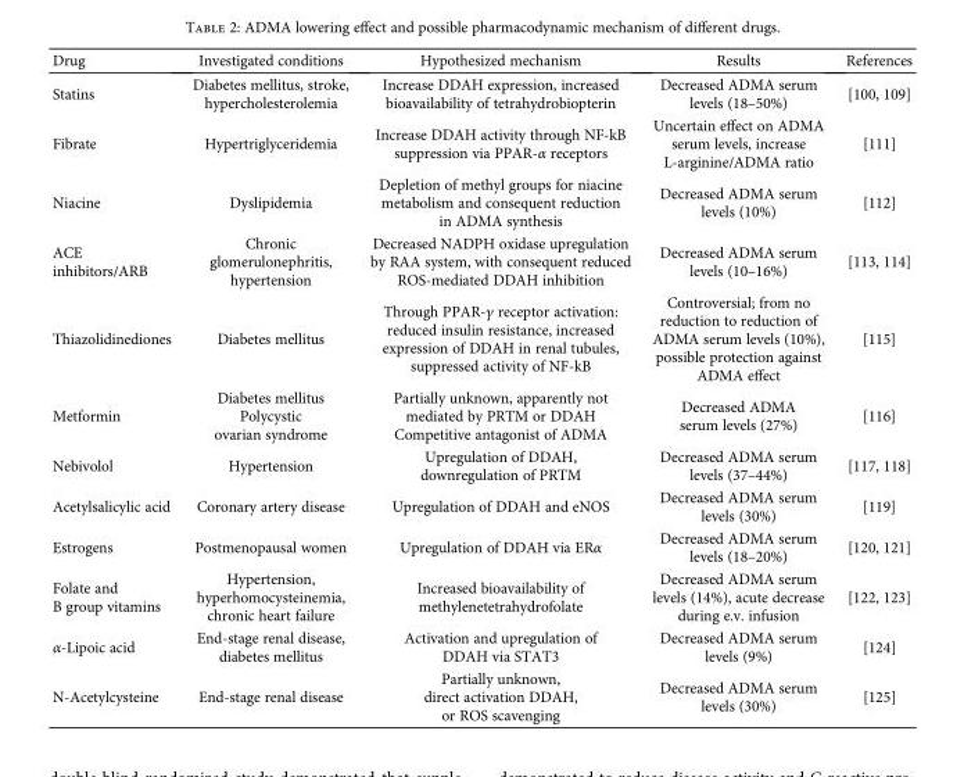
<table><thead><tr><td>Drug</td><td>Investigated conditions</td><td>Hypothesized mechanism</td><td>Results</td><td>References</td></tr></thead><tbody><tr><td>Statins</td><td>Diabetes mellitus, stroke, hypercholesterolemia</td><td>Increase DDAH expression, increased bioavailability of tetrahydrobiopterin</td><td>Decreased ADMA serum levels (18–50%)</td><td>[100, 109]</td></tr><tr><td>Fibrate</td><td>Hypertriglyceridemia</td><td>Increase DDAH activity through NF-kB suppression via PPAR-α receptors</td><td>Uncertain effect on ADMA serum levels, increase L-arginine/ADMA ratio</td><td>[111]</td></tr><tr><td>Niacine</td><td>Dyslipidemia</td><td>Depletion of methyl groups for niacine metabolism and consequent reduction in ADMA synthesis</td><td>Decreased ADMA serum levels (10%)</td><td>[112]</td></tr><tr><td>ACE inhibitors/ARB</td><td>Chronic glomerulonephritis, hypertension</td><td>Decreased NADPH oxidase upregulation by RAA system, with consequent reduced ROS-mediated DDAH inhibition</td><td>Decreased ADMA serum levels (10–16%)</td><td>[113, 114]</td></tr><tr><td>Thiazolidinediones</td><td>Diabetes mellitus</td><td>Through PPAR-γ receptor activation: reduced insulin resistance, increased expression of DDAH in renal tubules, suppressed activity of NF-kB</td><td>Controversial; from no reduction to reduction of ADMA serum levels (10%), possible protection against ADMA effect</td><td>[115]</td></tr><tr><td>Metformin</td><td>Diabetes mellitus Polycystic ovarian syndrome</td><td>Partially unknown, apparently not mediated by PRTM or DDAH Competitive antagonist of ADMA</td><td>Decreased ADMA serum levels (27%)</td><td>[116]</td></tr><tr><td>Nebivolol</td><td>Hypertension</td><td>Upregulation of DDAH, downregulation of PRTM</td><td>Decreased ADMA serum levels (37–44%)</td><td>[117, 118]</td></tr><tr><td>Acetylsalicylic acid</td><td>Coronary artery disease</td><td>Upregulation of DDAH and eNOS</td><td>Decreased ADMA serum levels (30%)</td><td>[119]</td></tr><tr><td>Estrogens</td><td>Postmenopausal women</td><td>Upregulation of DDAH via ERα</td><td>Decreased ADMA serum levels (18–20%)</td><td>[120, 121]</td></tr><tr><td>Folate and B group vitamins</td><td>Hypertension, hyperhomocysteinemia, chronic heart failure</td><td>Increased bioavailability of methylenetetrahydrofolate</td><td>Decreased ADMA serum levels (14%), acute decrease during e.v. infusion</td><td>[122, 123]</td></tr><tr><td>α-Lipoic acid</td><td>End-stage renal disease, diabetes mellitus</td><td>Activation and upregulation of DDAH via STAT3</td><td>Decreased ADMA serum levels (9%)</td><td>[124]</td></tr><tr><td>N-Acetylcysteine</td><td>End-stage renal disease</td><td>Partially unknown, direct activation DDAH, or ROS scavenging</td><td>Decreased ADMA serum levels (30%)</td><td>[125]</td></tr></tbody></table>